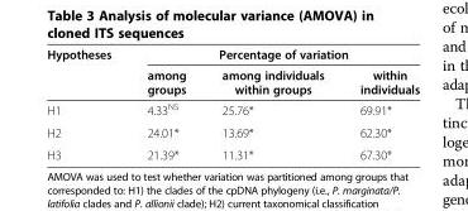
<table><thead><tr><td rowspan="2">Hypotheses</td><td colspan="3">Percentage of variation</td></tr><tr><td>among groups</td><td>among individuals within groups</td><td>within individuals</td></tr></thead><tbody><tr><td>H1</td><td>4.33<sup>NS</sup></td><td>25.76*</td><td>69.91*</td></tr><tr><td>H2</td><td>24.01*</td><td>13.69*</td><td>62.30*</td></tr><tr><td>H3</td><td>21.39*</td><td>11.31*</td><td>67.30*</td></tr></tbody></table>